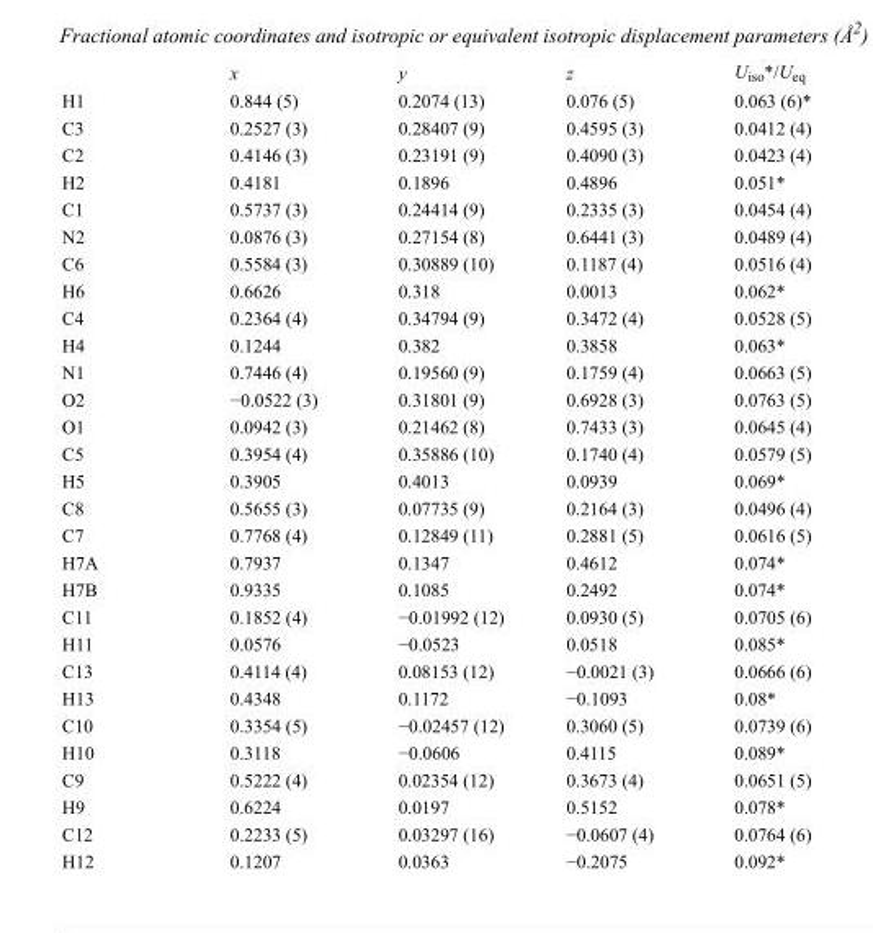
<table><thead><tr><td></td><td>x</td><td>y</td><td>z</td><td>U<sub>iso</sub>*/U<sub>eq</sub></td></tr></thead><tbody><tr><td>H1</td><td>0.844 (5)</td><td>0.2074 (13)</td><td>0.076 (5)</td><td>0.063 (6)*</td></tr><tr><td>C3</td><td>0.2527 (3)</td><td>0.28407 (9)</td><td>0.4595 (3)</td><td>0.0412 (4)</td></tr><tr><td>C2</td><td>0.4146 (3)</td><td>0.23191 (9)</td><td>0.4090 (3)</td><td>0.0423 (4)</td></tr><tr><td>H2</td><td>0.4181</td><td>0.1896</td><td>0.4896</td><td>0.051*</td></tr><tr><td>C1</td><td>0.5737 (3)</td><td>0.24414 (9)</td><td>0.2335 (3)</td><td>0.0454 (4)</td></tr><tr><td>N2</td><td>0.0876 (3)</td><td>0.27154 (8)</td><td>0.6441 (3)</td><td>0.0489 (4)</td></tr><tr><td>C6</td><td>0.5584 (3)</td><td>0.30889 (10)</td><td>0.1187 (4)</td><td>0.0516 (4)</td></tr><tr><td>H6</td><td>0.6626</td><td>0.318</td><td>0.0013</td><td>0.062*</td></tr><tr><td>C4</td><td>0.2364 (4)</td><td>0.34794 (9)</td><td>0.3472 (4)</td><td>0.0528 (5)</td></tr><tr><td>H4</td><td>0.1244</td><td>0.382</td><td>0.3858</td><td>0.063*</td></tr><tr><td>N1</td><td>0.7446 (4)</td><td>0.19560 (9)</td><td>0.1759 (4)</td><td>0.0663 (5)</td></tr><tr><td>O2</td><td>−0.0522 (3)</td><td>0.31801 (9)</td><td>0.6928 (3)</td><td>0.0763 (5)</td></tr><tr><td>O1</td><td>0.0942 (3)</td><td>0.21462 (8)</td><td>0.7433 (3)</td><td>0.0645 (4)</td></tr><tr><td>C5</td><td>0.3954 (4)</td><td>0.35886 (10)</td><td>0.1740 (4)</td><td>0.0579 (5)</td></tr><tr><td>H5</td><td>0.3905</td><td>0.4013</td><td>0.0939</td><td>0.069*</td></tr><tr><td>C8</td><td>0.5655 (3)</td><td>0.07735 (9)</td><td>0.2164 (3)</td><td>0.0496 (4)</td></tr><tr><td>C7</td><td>0.7768 (4)</td><td>0.12849 (11)</td><td>0.2881 (5)</td><td>0.0616 (5)</td></tr><tr><td>H7A</td><td>0.7937</td><td>0.1347</td><td>0.4612</td><td>0.074*</td></tr><tr><td>H7B</td><td>0.9335</td><td>0.1085</td><td>0.2492</td><td>0.074*</td></tr><tr><td>C11</td><td>0.1852 (4)</td><td>−0.01992 (12)</td><td>0.0930 (5)</td><td>0.0705 (6)</td></tr><tr><td>H11</td><td>0.0576</td><td>−0.0523</td><td>0.0518</td><td>0.085*</td></tr><tr><td>C13</td><td>0.4114 (4)</td><td>0.08153 (12)</td><td>−0.0021 (3)</td><td>0.0666 (6)</td></tr><tr><td>H13</td><td>0.4348</td><td>0.1172</td><td>−0.1093</td><td>0.08*</td></tr><tr><td>C10</td><td>0.3354 (5)</td><td>−0.02457 (12)</td><td>0.3060 (5)</td><td>0.0739 (6)</td></tr><tr><td>H10</td><td>0.3118</td><td>−0.0606</td><td>0.4115</td><td>0.089*</td></tr><tr><td>C9</td><td>0.5222 (4)</td><td>0.02354 (12)</td><td>0.3673 (4)</td><td>0.0651 (5)</td></tr><tr><td>H9</td><td>0.6224</td><td>0.0197</td><td>0.5152</td><td>0.078*</td></tr><tr><td>C12</td><td>0.2233 (5)</td><td>0.03297 (16)</td><td>−0.0607 (4)</td><td>0.0764 (6)</td></tr><tr><td>H12</td><td>0.1207</td><td>0.0363</td><td>−0.2075</td><td>0.092*</td></tr></tbody></table>